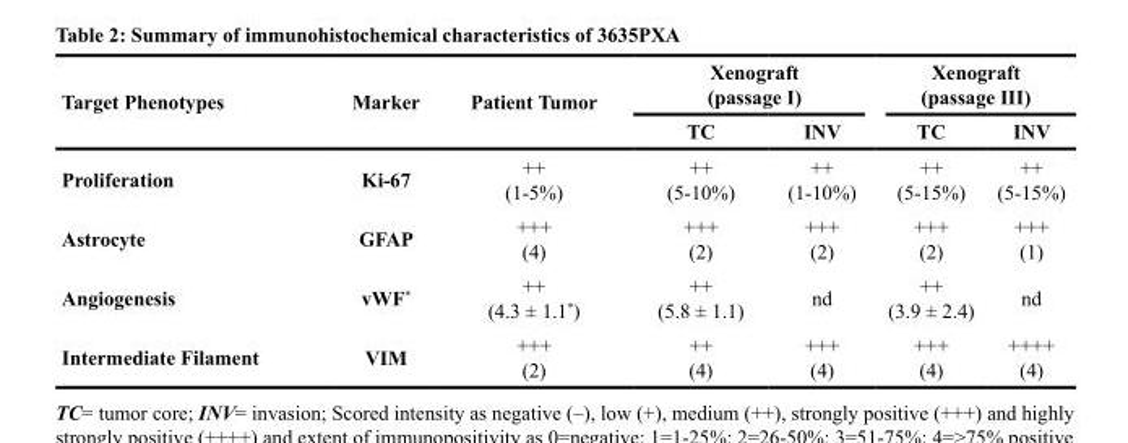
<table><thead><tr><td rowspan="2">Target Phenotypes</td><td rowspan="2">Marker</td><td rowspan="2">Patient Tumor</td><td colspan="2">Xenograft (passage I)</td><td colspan="2">Xenograft (passage III)</td></tr><tr><td>TC</td><td>INV</td><td>TC</td><td>INV</td></tr></thead><tbody><tr><td>Proliferation</td><td>Ki-67</td><td>++ (1-5%)</td><td>++ (5-10%)</td><td>++ (1-10%)</td><td>++ (5-15%)</td><td>++ (5-15%)</td></tr><tr><td>Astrocyte</td><td>GFAP</td><td>+++ (4)</td><td>+++ (2)</td><td>+++ (2)</td><td>+++ (2)</td><td>+++ (1)</td></tr><tr><td>Angiogenesis</td><td>vWF*</td><td>++ (4.3 ± 1.1*)</td><td>++ (5.8 ± 1.1)</td><td>nd</td><td>++ (3.9 ± 2.4)</td><td>nd</td></tr><tr><td>Intermediate Filament</td><td>VIM</td><td>+++ (2)</td><td>++ (4)</td><td>+++ (4)</td><td>+++ (4)</td><td>++++ (4)</td></tr></tbody></table>